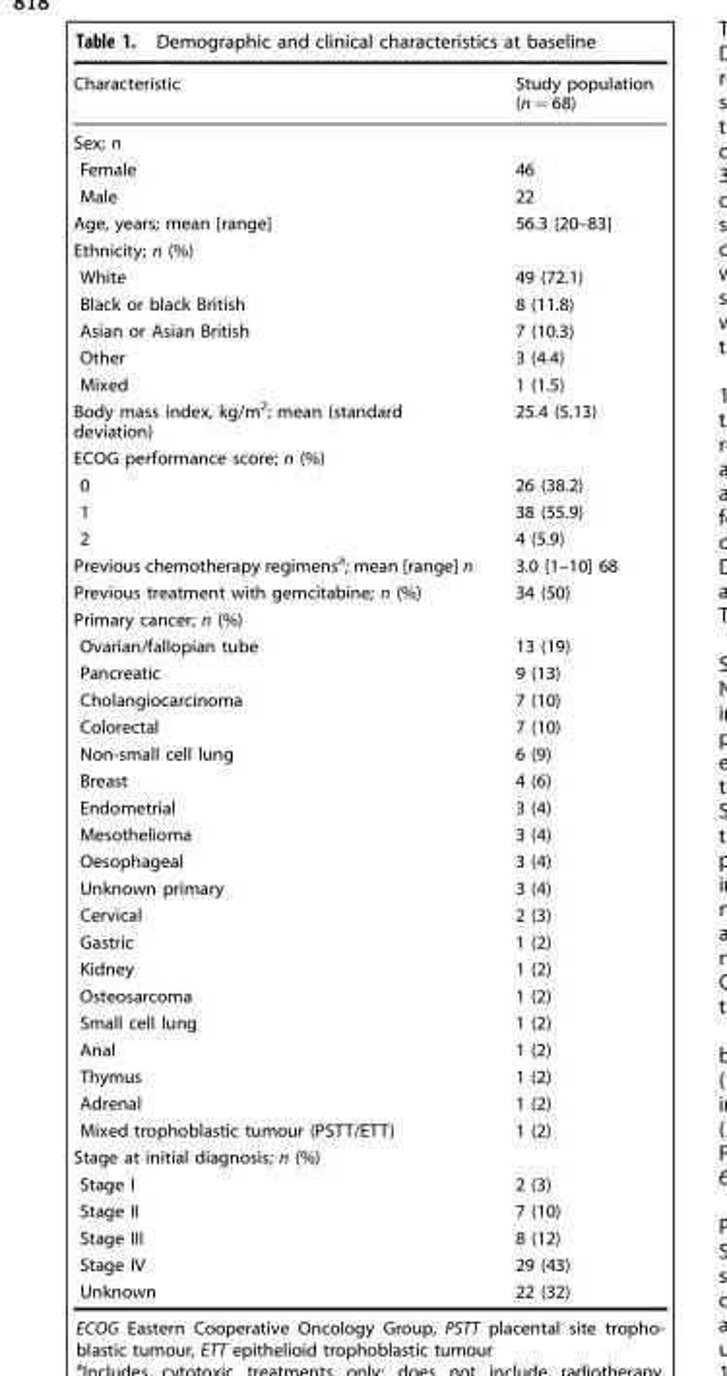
<table><thead><tr><td>Characteristic</td><td>Study population (n = 68)</td></tr></thead><tbody><tr><td colspan="2">Sex; n</td></tr><tr><td>Female</td><td>46</td></tr><tr><td>Male</td><td>22</td></tr><tr><td>Age, years; mean [range]</td><td>56.3 [20–83]</td></tr><tr><td colspan="2">Ethnicity; n (%)</td></tr><tr><td>White</td><td>49 (72.1)</td></tr><tr><td>Black or black British</td><td>8 (11.8)</td></tr><tr><td>Asian or Asian British</td><td>7 (10.3)</td></tr><tr><td>Other</td><td>3 (4.4)</td></tr><tr><td>Mixed</td><td>1 (1.5)</td></tr><tr><td>Body mass index, kg/m<sup>2</sup>; mean (standard deviation)</td><td>25.4 (5.13)</td></tr><tr><td colspan="2">ECOG performance score; n (%)</td></tr><tr><td>0</td><td>26 (38.2)</td></tr><tr><td>1</td><td>38 (55.9)</td></tr><tr><td>2</td><td>4 (5.9)</td></tr><tr><td>Previous chemotherapy regimens<sup>a</sup>; mean [range] n</td><td>3.0 [1–10] 68</td></tr><tr><td>Previous treatment with gemcitabine; n (%)</td><td>34 (50)</td></tr><tr><td colspan="2">Primary cancer; n (%)</td></tr><tr><td>Ovarian/fallopian tube</td><td>13 (19)</td></tr><tr><td>Pancreatic</td><td>9 (13)</td></tr><tr><td>Cholangiocarcinoma</td><td>7 (10)</td></tr><tr><td>Colorectal</td><td>7 (10)</td></tr><tr><td>Non-small cell lung</td><td>6 (9)</td></tr><tr><td>Breast</td><td>4 (6)</td></tr><tr><td>Endometrial</td><td>3 (4)</td></tr><tr><td>Mesothelioma</td><td>3 (4)</td></tr><tr><td>Oesophageal</td><td>3 (4)</td></tr><tr><td>Unknown primary</td><td>3 (4)</td></tr><tr><td>Cervical</td><td>2 (3)</td></tr><tr><td>Gastric</td><td>1 (2)</td></tr><tr><td>Kidney</td><td>1 (2)</td></tr><tr><td>Osteosarcoma</td><td>1 (2)</td></tr><tr><td>Small cell lung</td><td>1 (2)</td></tr><tr><td>Anal</td><td>1 (2)</td></tr><tr><td>Thymus</td><td>1 (2)</td></tr><tr><td>Adrenal</td><td>1 (2)</td></tr><tr><td>Mixed trophoblastic tumour (PSTT/ETT)</td><td>1 (2)</td></tr><tr><td colspan="2">Stage at initial diagnosis; n (%)</td></tr><tr><td>Stage I</td><td>2 (3)</td></tr><tr><td>Stage II</td><td>7 (10)</td></tr><tr><td>Stage III</td><td>8 (12)</td></tr><tr><td>Stage IV</td><td>29 (43)</td></tr><tr><td>Unknown</td><td>22 (32)</td></tr></tbody></table>